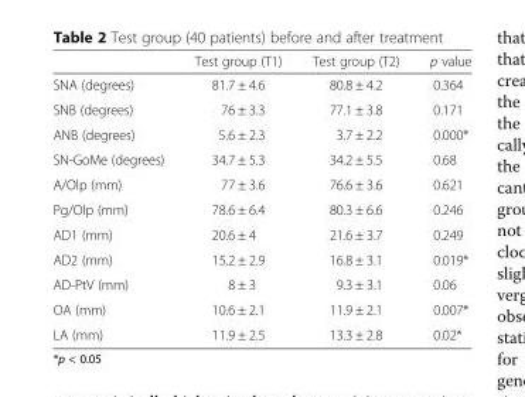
<table><thead><tr><td></td><td>Test group (T1)</td><td>Test group (T2)</td><td>p value</td></tr></thead><tbody><tr><td>SNA (degrees)</td><td>81.7 ± 4.6</td><td>80.8 ± 4.2</td><td>0.364</td></tr><tr><td>SNB (degrees)</td><td>76 ± 3.3</td><td>77.1 ± 3.8</td><td>0.171</td></tr><tr><td>ANB (degrees)</td><td>5.6 ± 2.3</td><td>3.7 ± 2.2</td><td>0.000*</td></tr><tr><td>SN-GoMe (degrees)</td><td>34.7 ± 5.3</td><td>34.2 ± 5.5</td><td>0.68</td></tr><tr><td>A/Olp (mm)</td><td>77 ± 3.6</td><td>76.6 ± 3.6</td><td>0.621</td></tr><tr><td>Pg/Olp (mm)</td><td>78.6 ± 6.4</td><td>80.3 ± 6.6</td><td>0.246</td></tr><tr><td>AD1 (mm)</td><td>20.6 ± 4</td><td>21.6 ± 3.7</td><td>0.249</td></tr><tr><td>AD2 (mm)</td><td>15.2 ± 2.9</td><td>16.8 ± 3.1</td><td>0.019*</td></tr><tr><td>AD-PtV (mm)</td><td>8 ± 3</td><td>9.3 ± 3.1</td><td>0.06</td></tr><tr><td>OA (mm)</td><td>10.6 ± 2.1</td><td>11.9 ± 2.1</td><td>0.007*</td></tr><tr><td>LA (mm)</td><td>11.9 ± 2.5</td><td>13.3 ± 2.8</td><td>0.02*</td></tr></tbody></table>